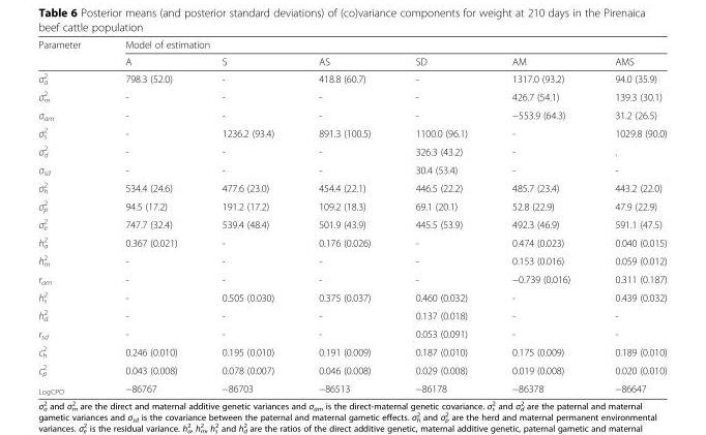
<table><thead><tr><td rowspan="2">Parameter</td><td colspan="6">Model of estimation</td></tr><tr><td>A</td><td>S</td><td>AS</td><td>SD</td><td>AM</td><td>AMS</td></tr></thead><tbody><tr><td>σ<sub>a</sub> <sup>2</sup></td><td>798.3 (52.0)</td><td>-</td><td>418.8 (60.7)</td><td>-</td><td>1317.0 (93.2)</td><td>94.0 (35.9)</td></tr><tr><td>σ<sub>m</sub> <sup>2</sup></td><td>-</td><td>-</td><td>-</td><td>-</td><td>426.7 (54.1)</td><td>139.3 (30.1)</td></tr><tr><td>σ<sub>am</sub></td><td>-</td><td>-</td><td>-</td><td>-</td><td>−553.9 (64.3)</td><td>31.2 (26.5)</td></tr><tr><td>σ<sub>s</sub> <sup>2</sup></td><td>-</td><td>1236.2 (93.4)</td><td>891.3 (100.5)</td><td>1100.0 (96.1)</td><td>-</td><td>1029.8 (90.0)</td></tr><tr><td>σ<sub>d</sub> <sup>2</sup></td><td>-</td><td>-</td><td>-</td><td>326.3 (43.2)</td><td>-</td><td>.</td></tr><tr><td>σ<sub>sd</sub></td><td>-</td><td>-</td><td>-</td><td>30.4 (53.4)</td><td>-</td><td>-</td></tr><tr><td>σ<sub>h</sub> <sup>2</sup></td><td>534.4 (24.6)</td><td>477.6 (23.0)</td><td>454.4 (22.1)</td><td>446.5 (22.2)</td><td>485.7 (23.4)</td><td>443.2 (22.0)</td></tr><tr><td>σ<sub>p</sub> <sup>2</sup></td><td>94.5 (17.2)</td><td>191.2 (17.2)</td><td>109.2 (18.3)</td><td>69.1 (20.1)</td><td>52.8 (22.9)</td><td>47.9 (22.9)</td></tr><tr><td>σ<sub>e</sub> <sup>2</sup></td><td>747.7 (32.4)</td><td>539.4 (48.4)</td><td>501.9 (43.9)</td><td>445.5 (53.9)</td><td>492.3 (46.9)</td><td>591.1 (47.5)</td></tr><tr><td>h<sub>a</sub> <sup>2</sup></td><td>0.367 (0.021)</td><td>-</td><td>0.176 (0.026)</td><td>-</td><td>0.474 (0.023)</td><td>0.040 (0.015)</td></tr><tr><td>h<sub>m</sub> <sup>2</sup></td><td>-</td><td>-</td><td>-</td><td>-</td><td>0.153 (0.016)</td><td>0.059 (0.012)</td></tr><tr><td>r<sub>am</sub></td><td>-</td><td>-</td><td>-</td><td>-</td><td>−0.739 (0.016)</td><td>0.311 (0.187)</td></tr><tr><td>h<sub>s</sub> <sup>2</sup></td><td>-</td><td>0.505 (0.030)</td><td>0.375 (0.037)</td><td>0.460 (0.032)</td><td>-</td><td>0.439 (0.032)</td></tr><tr><td>h<sub>d</sub> <sup>2</sup></td><td>-</td><td>-</td><td>-</td><td>0.137 (0.018)</td><td>-</td><td>-</td></tr><tr><td>r<sub>sd</sub></td><td>-</td><td>-</td><td>-</td><td>0.053 (0.091)</td><td>-</td><td>-</td></tr><tr><td>c<sub>h</sub> <sup>2</sup></td><td>0.246 (0.010)</td><td>0.195 (0.010)</td><td>0.191 (0.009)</td><td>0.187 (0.010)</td><td>0.175 (0.009)</td><td>0.189 (0.010)</td></tr><tr><td>c<sub>p</sub> <sup>2</sup></td><td>0.043 (0.008)</td><td>0.078 (0.007)</td><td>0.046 (0.008)</td><td>0.029 (0.008)</td><td>0.019 (0.008)</td><td>0.020 (0.010)</td></tr><tr><td><sub>LogCPO</sub></td><td>−86767</td><td>−86703</td><td>−86513</td><td>−86178</td><td>−86378</td><td>−86647</td></tr></tbody></table>